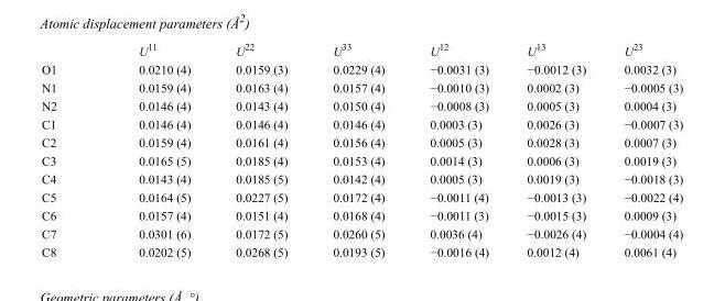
<table><thead><tr><td></td><td>U<sup>11</sup></td><td>U<sup>22</sup></td><td>U<sup>33</sup></td><td>U<sup>12</sup></td><td>U<sup>13</sup></td><td>U<sup>23</sup></td></tr></thead><tbody><tr><td>O1</td><td>0.0210 (4)</td><td>0.0159 (3)</td><td>0.0229 (4)</td><td>−0.0031 (3)</td><td>−0.0012 (3)</td><td>0.0032 (3)</td></tr><tr><td>N1</td><td>0.0159 (4)</td><td>0.0163 (4)</td><td>0.0157 (4)</td><td>−0.0010 (3)</td><td>0.0002 (3)</td><td>−0.0005 (3)</td></tr><tr><td>N2</td><td>0.0146 (4)</td><td>0.0143 (4)</td><td>0.0150 (4)</td><td>−0.0008 (3)</td><td>0.0005 (3)</td><td>0.0004 (3)</td></tr><tr><td>C1</td><td>0.0146 (4)</td><td>0.0146 (4)</td><td>0.0146 (4)</td><td>0.0003 (3)</td><td>0.0026 (3)</td><td>−0.0007 (3)</td></tr><tr><td>C2</td><td>0.0159 (4)</td><td>0.0161 (4)</td><td>0.0156 (4)</td><td>0.0005 (3)</td><td>0.0028 (3)</td><td>0.0007 (3)</td></tr><tr><td>C3</td><td>0.0165 (5)</td><td>0.0185 (4)</td><td>0.0153 (4)</td><td>0.0014 (3)</td><td>0.0006 (3)</td><td>0.0019 (3)</td></tr><tr><td>C4</td><td>0.0143 (4)</td><td>0.0185 (5)</td><td>0.0142 (4)</td><td>0.0005 (3)</td><td>0.0019 (3)</td><td>−0.0018 (3)</td></tr><tr><td>C5</td><td>0.0164 (5)</td><td>0.0227 (5)</td><td>0.0172 (4)</td><td>−0.0011 (4)</td><td>−0.0013 (3)</td><td>−0.0022 (4)</td></tr><tr><td>C6</td><td>0.0157 (4)</td><td>0.0151 (4)</td><td>0.0168 (4)</td><td>−0.0011 (3)</td><td>−0.0015 (3)</td><td>0.0009 (3)</td></tr><tr><td>C7</td><td>0.0301 (6)</td><td>0.0172 (5)</td><td>0.0260 (5)</td><td>0.0036 (4)</td><td>−0.0026 (4)</td><td>−0.0004 (4)</td></tr><tr><td>C8</td><td>0.0202 (5)</td><td>0.0268 (5)</td><td>0.0193 (5)</td><td>−0.0016 (4)</td><td>0.0012 (4)</td><td>0.0061 (4)</td></tr></tbody></table>